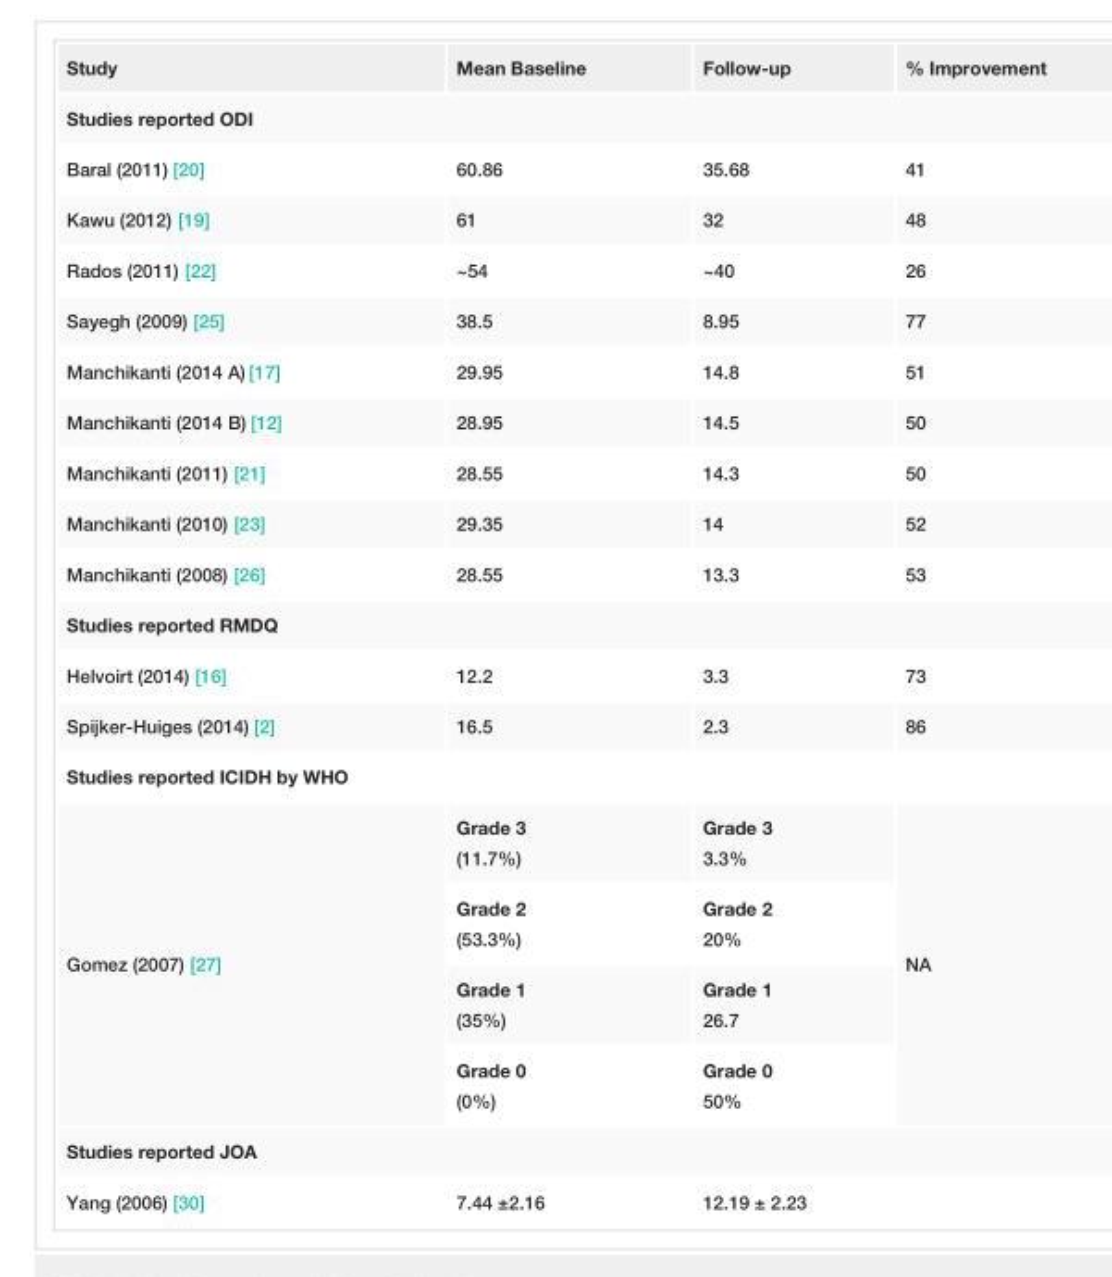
<table><tbody><tr><td>Study</td><td>Mean Baseline</td><td>Follow-up</td><td>% Improvement</td></tr><tr><td colspan="4">Studies reported ODI</td></tr><tr><td>Baral (2011) [20]</td><td>60.86</td><td>35.68</td><td>41</td></tr><tr><td>Kawu (2012) [19]</td><td>61</td><td>32</td><td>48</td></tr><tr><td>Rados (2011) [22]</td><td>~54</td><td>~40</td><td>26</td></tr><tr><td>Sayegh (2009) [25]</td><td>38.5</td><td>8.95</td><td>77</td></tr><tr><td>Manchikanti (2014 A) [17]</td><td>29.95</td><td>14.8</td><td>51</td></tr><tr><td>Manchikanti (2014 B) [12]</td><td>28.95</td><td>14.5</td><td>50</td></tr><tr><td>Manchikanti (2011) [21]</td><td>28.55</td><td>14.3</td><td>50</td></tr><tr><td>Manchikanti (2010) [23]</td><td>29.35</td><td>14</td><td>52</td></tr><tr><td>Manchikanti (2008) [26]</td><td>28.55</td><td>13.3</td><td>53</td></tr><tr><td colspan="4">Studies reported RMDQ</td></tr><tr><td>Helvoirt (2014) [16]</td><td>12.2</td><td>3.3</td><td>73</td></tr><tr><td>Spijker-Huiges (2014) [2]</td><td>16.5</td><td>2.3</td><td>86</td></tr><tr><td colspan="4">Studies reported ICIDH by WHO</td></tr><tr><td rowspan="4">Gomez (2007) [27]</td><td>Grade 3 (11.7%)</td><td>Grade 3 3.3%</td><td rowspan="4">NA</td></tr><tr><td>Grade 2 (53.3%)</td><td>Grade 2 20%</td></tr><tr><td>Grade 1 (35%)</td><td>Grade 1 26.7</td></tr><tr><td>Grade 0 (0%)</td><td>Grade 0 50%</td></tr><tr><td colspan="4">Studies reported JOA</td></tr><tr><td>Yang (2006) [30]</td><td>7.44 ±2.16</td><td>12.19 ± 2.23</td><td></td></tr></tbody></table>